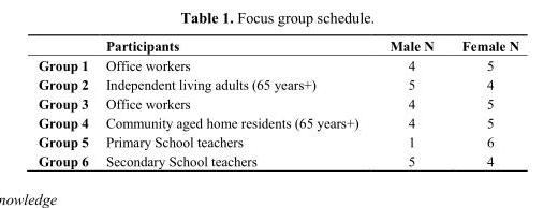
<table><thead><tr><td></td><td>Participants</td><td>Male N</td><td>Female N</td></tr></thead><tbody><tr><td>Group 1</td><td>Office workers</td><td>4</td><td>5</td></tr><tr><td>Group 2</td><td>Independent living adults (65 years+)</td><td>5</td><td>4</td></tr><tr><td>Group 3</td><td>Office workers</td><td>4</td><td>5</td></tr><tr><td>Group 4</td><td>Community aged home residents (65 years+)</td><td>4</td><td>5</td></tr><tr><td>Group 5</td><td>Primary School teachers</td><td>1</td><td>6</td></tr><tr><td>Group 6</td><td>Secondary School teachers</td><td>5</td><td>4</td></tr></tbody></table>